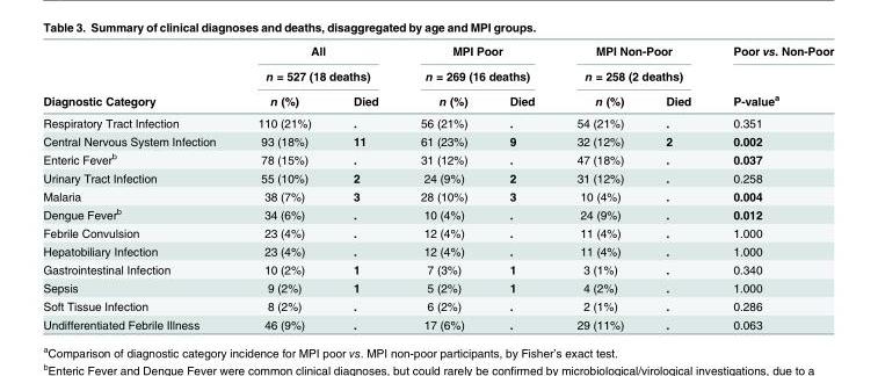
<table><thead><tr><td rowspan="3">Diagnostic Category</td><td rowspan="2" colspan="2">All n = 527 (18 deaths)</td><td rowspan="2" colspan="2">MPI Poor n = 269 (16 deaths)</td><td rowspan="2" colspan="2">MPI Non-Poor n = 258 (2 deaths)</td><td rowspan="3">Poor vs. Non-Poor P-value<sup>a</sup></td></tr><tr></tr><tr><td>n (%)</td><td>Died</td><td>n (%)</td><td>Died</td><td>n (%)</td><td>Died</td></tr></thead><tbody><tr><td>Respiratory Tract Infection</td><td>110 (21%)</td><td>.</td><td>56 (21%)</td><td>.</td><td>54 (21%)</td><td>.</td><td>0.351</td></tr><tr><td>Central Nervous System Infection</td><td>93 (18%)</td><td>11</td><td>61 (23%)</td><td>9</td><td>32 (12%)</td><td>2</td><td>0.002</td></tr><tr><td>Enteric Fever<sup>b</sup></td><td>78 (15%)</td><td>.</td><td>31 (12%)</td><td>.</td><td>47 (18%)</td><td>.</td><td>0.037</td></tr><tr><td>Urinary Tract Infection</td><td>55 (10%)</td><td>2</td><td>24 (9%)</td><td>2</td><td>31 (12%)</td><td>.</td><td>0.258</td></tr><tr><td>Malaria</td><td>38 (7%)</td><td>3</td><td>28 (10%)</td><td>3</td><td>10 (4%)</td><td>.</td><td>0.004</td></tr><tr><td>Dengue Fever<sup>b</sup></td><td>34 (6%)</td><td>.</td><td>10 (4%)</td><td>.</td><td>24 (9%)</td><td>.</td><td>0.012</td></tr><tr><td>Febrile Convulsion</td><td>23 (4%)</td><td>.</td><td>12 (4%)</td><td>.</td><td>11 (4%)</td><td>.</td><td>1.000</td></tr><tr><td>Hepatobiliary Infection</td><td>23 (4%)</td><td>.</td><td>12 (4%)</td><td>.</td><td>11 (4%)</td><td>.</td><td>1.000</td></tr><tr><td>Gastrointestinal Infection</td><td>10 (2%)</td><td>1</td><td>7 (3%)</td><td>1</td><td>3 (1%)</td><td>.</td><td>0.340</td></tr><tr><td>Sepsis</td><td>9 (2%)</td><td>1</td><td>5 (2%)</td><td>1</td><td>4 (2%)</td><td>.</td><td>1.000</td></tr><tr><td>Soft Tissue Infection</td><td>8 (2%)</td><td>.</td><td>6 (2%)</td><td>.</td><td>2 (1%)</td><td>.</td><td>0.286</td></tr><tr><td>Undifferentiated Febrile Illness</td><td>46 (9%)</td><td>.</td><td>17 (6%)</td><td>.</td><td>29 (11%)</td><td>.</td><td>0.063</td></tr></tbody></table>